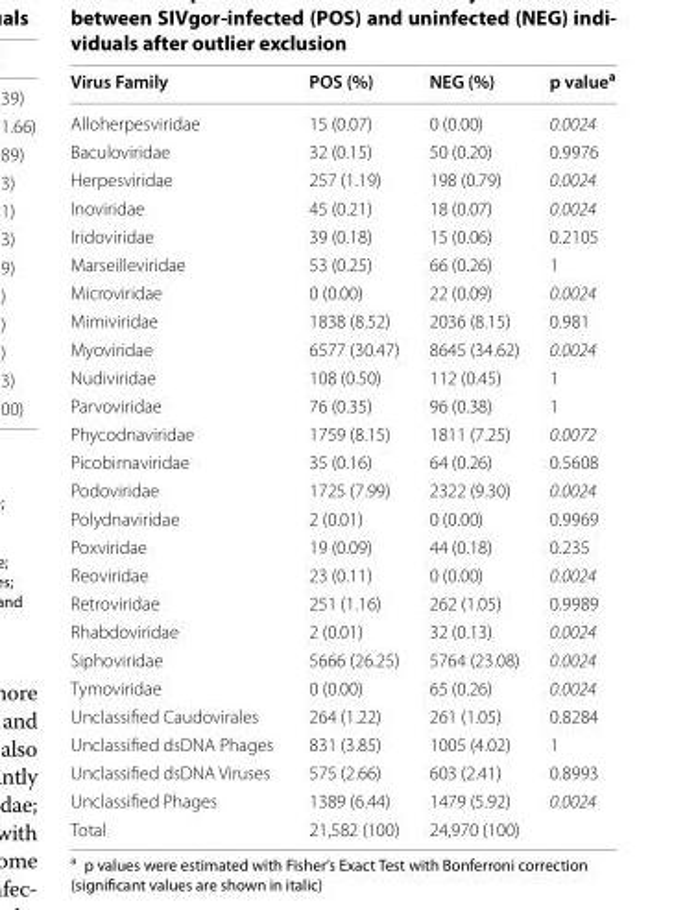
<table><thead><tr><td>Virus Family</td><td>POS (%)</td><td>NEG (%)</td><td>p value<sup>a</sup></td></tr></thead><tbody><tr><td>Alloherpesviridae</td><td>15 (0.07)</td><td>0 (0.00)</td><td>0.0024</td></tr><tr><td>Baculoviridae</td><td>32 (0.15)</td><td>50 (0.20)</td><td>0.9976</td></tr><tr><td>Herpesviridae</td><td>257 (1.19)</td><td>198 (0.79)</td><td>0.0024</td></tr><tr><td>Inoviridae</td><td>45 (0.21)</td><td>18 (0.07)</td><td>0.0024</td></tr><tr><td>Iridoviridae</td><td>39 (0.18)</td><td>15 (0.06)</td><td>0.2105</td></tr><tr><td>Marseilleviridae</td><td>53 (0.25)</td><td>66 (0.26)</td><td>1</td></tr><tr><td>Microviridae</td><td>0 (0.00)</td><td>22 (0.09)</td><td>0.0024</td></tr><tr><td>Mimiviridae</td><td>1838 (8.52)</td><td>2036 (8.15)</td><td>0.981</td></tr><tr><td>Myoviridae</td><td>6577 (30.47)</td><td>8645 (34.62)</td><td>0.0024</td></tr><tr><td>Nudiviridae</td><td>108 (0.50)</td><td>112 (0.45)</td><td>1</td></tr><tr><td>Parvoviridae</td><td>76 (0.35)</td><td>96 (0.38)</td><td>1</td></tr><tr><td>Phycodnaviridae</td><td>1759 (8.15)</td><td>1811 (7.25)</td><td>0.0072</td></tr><tr><td>Picobirnaviridae</td><td>35 (0.16)</td><td>64 (0.26)</td><td>0.5608</td></tr><tr><td>Podoviridae</td><td>1725 (7.99)</td><td>2322 (9.30)</td><td>0.0024</td></tr><tr><td>Polydnaviridae</td><td>2 (0.01)</td><td>0 (0.00)</td><td>0.9969</td></tr><tr><td>Poxviridae</td><td>19 (0.09)</td><td>44 (0.18)</td><td>0.235</td></tr><tr><td>Reoviridae</td><td>23 (0.11)</td><td>0 (0.00)</td><td>0.0024</td></tr><tr><td>Retroviridae</td><td>251 (1.16)</td><td>262 (1.05)</td><td>0.9989</td></tr><tr><td>Rhabdoviridae</td><td>2 (0.01)</td><td>32 (0.13)</td><td>0.0024</td></tr><tr><td>Siphoviridae</td><td>5666 (26.25)</td><td>5764 (23.08)</td><td>0.0024</td></tr><tr><td>Tymoviridae</td><td>0 (0.00)</td><td>65 (0.26)</td><td>0.0024</td></tr><tr><td>Unclassified Caudovirales</td><td>264 (1.22)</td><td>261 (1.05)</td><td>0.8284</td></tr><tr><td>Unclassified dsDNA Phages</td><td>831 (3.85)</td><td>1005 (4.02)</td><td>1</td></tr><tr><td>Unclassified dsDNA Viruses</td><td>575 (2.66)</td><td>603 (2.41)</td><td>0.8993</td></tr><tr><td>Unclassified Phages</td><td>1389 (6.44)</td><td>1479 (5.92)</td><td>0.0024</td></tr><tr><td>Total</td><td>21,582 (100)</td><td>24,970 (100)</td><td></td></tr></tbody></table>